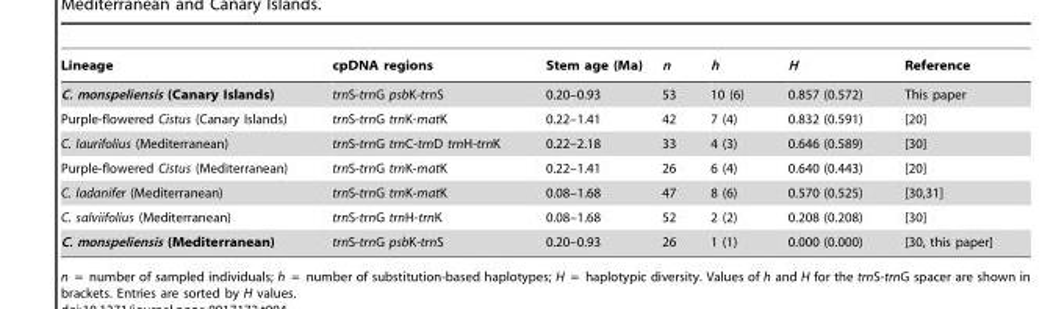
<table><thead><tr><td>Lineage</td><td>cpDNA regions</td><td>Stem age (Ma)</td><td>n</td><td>h</td><td>H</td><td>Reference</td></tr></thead><tbody><tr><td>C. monspeliensis (Canary Islands)</td><td>trnS-trnG psbK-trnS</td><td>0.20–0.93</td><td>53</td><td>10 (6)</td><td>0.857 (0.572)</td><td>This paper</td></tr><tr><td>Purple-flowered Cistus (Canary Islands)</td><td>trnS-trnG trnK-matK</td><td>0.22–1.41</td><td>42</td><td>7 (4)</td><td>0.832 (0.591)</td><td>[20]</td></tr><tr><td>C. laurifolius (Mediterranean)</td><td>trnS-trnG trnC-trnD trnH-trnK</td><td>0.22–2.18</td><td>33</td><td>4 (3)</td><td>0.646 (0.589)</td><td>[30]</td></tr><tr><td>Purple-flowered Cistus (Mediterranean)</td><td>trnS-trnG trnK-matK</td><td>0.22–1.41</td><td>26</td><td>6 (4)</td><td>0.640 (0.443)</td><td>[20]</td></tr><tr><td>C. ladanifer (Mediterranean)</td><td>trnS-trnG trnK-matK</td><td>0.08–1.68</td><td>47</td><td>8 (6)</td><td>0.570 (0.525)</td><td>[30,31]</td></tr><tr><td>C. salviifolius (Mediterranean)</td><td>trnS-trnG trnH-trnK</td><td>0.08–1.68</td><td>52</td><td>2 (2)</td><td>0.208 (0.208)</td><td>[30]</td></tr><tr><td>C. monspeliensis (Mediterranean)</td><td>trnS-trnG psbK-trnS</td><td>0.20–0.93</td><td>26</td><td>1 (1)</td><td>0.000 (0.000)</td><td>[30, this paper]</td></tr></tbody></table>